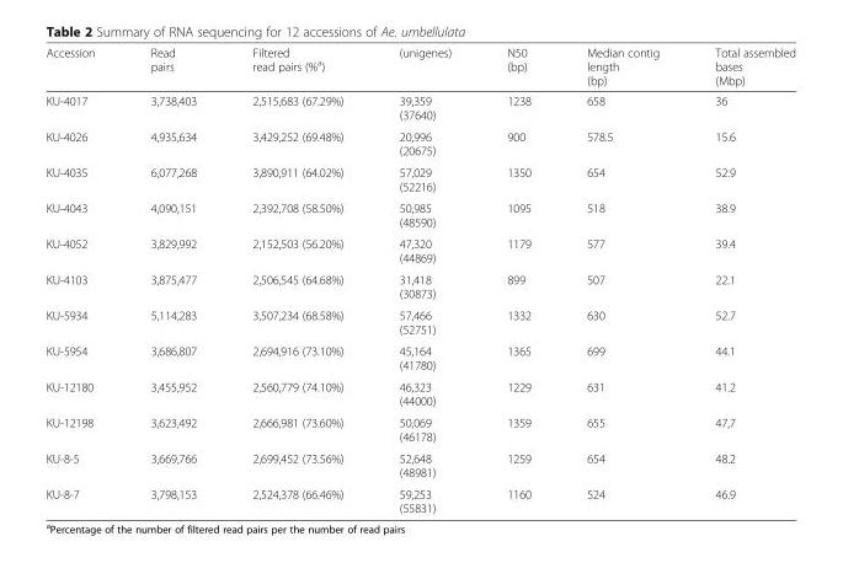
<table><thead><tr><td>Accession</td><td>Read pairs</td><td>Filtered read pairs (%<sup>a</sup>)</td><td>(unigenes)</td><td>N50 (bp)</td><td>Median contig length (bp)</td><td>Total assembled bases (Mbp)</td></tr></thead><tbody><tr><td>KU-4017</td><td>3,738,403</td><td>2,515,683 (67.29%)</td><td>39,359 (37640)</td><td>1238</td><td>658</td><td>36</td></tr><tr><td>KU-4026</td><td>4,935,634</td><td>3,429,252 (69.48%)</td><td>20,996 (20675)</td><td>900</td><td>578.5</td><td>15.6</td></tr><tr><td>KU-4035</td><td>6,077,268</td><td>3,890,911 (64.02%)</td><td>57,029 (52216)</td><td>1350</td><td>654</td><td>52.9</td></tr><tr><td>KU-4043</td><td>4,090,151</td><td>2,392,708 (58.50%)</td><td>50,985 (48590)</td><td>1095</td><td>518</td><td>38.9</td></tr><tr><td>KU-4052</td><td>3,829,992</td><td>2,152,503 (56.20%)</td><td>47,320 (44869)</td><td>1179</td><td>577</td><td>39.4</td></tr><tr><td>KU-4103</td><td>3,875,477</td><td>2,506,545 (64.68%)</td><td>31,418 (30873)</td><td>899</td><td>507</td><td>22.1</td></tr><tr><td>KU-5934</td><td>5,114,283</td><td>3,507,234 (68.58%)</td><td>57,466 (52751)</td><td>1332</td><td>630</td><td>52.7</td></tr><tr><td>KU-5954</td><td>3,686,807</td><td>2,694,916 (73.10%)</td><td>45,164 (41780)</td><td>1365</td><td>699</td><td>44.1</td></tr><tr><td>KU-12180</td><td>3,455,952</td><td>2,560,779 (74.10%)</td><td>46,323 (44000)</td><td>1229</td><td>631</td><td>41.2</td></tr><tr><td>KU-12198</td><td>3,623,492</td><td>2,666,981 (73.60%)</td><td>50,069 (46178)</td><td>1359</td><td>655</td><td>47,7</td></tr><tr><td>KU-8-5</td><td>3,669,766</td><td>2,699,452 (73.56%)</td><td>52,648 (48981)</td><td>1259</td><td>654</td><td>48.2</td></tr><tr><td>KU-8-7</td><td>3,798,153</td><td>2,524,378 (66.46%)</td><td>59,253 (55831)</td><td>1160</td><td>524</td><td>46.9</td></tr></tbody></table>